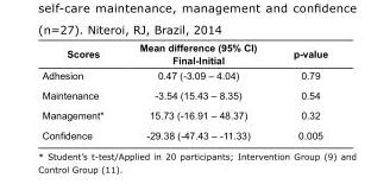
<table><tbody><tr><td>Scores</td><td>Mean difference (95% CI) Final-Initial</td><td>p-value</td></tr><tr><td>Adhesion</td><td>0.47 (-3.09 – 4.04)</td><td>0.79</td></tr><tr><td>Maintenance</td><td>-3.54 (15.43 – 8.35)</td><td>0.54</td></tr><tr><td>Management*</td><td>15.73 (-16.91 – 48.37)</td><td>0.32</td></tr><tr><td>Confidence</td><td>-29.38 (-47.43 – -11.33)</td><td>0.005</td></tr></tbody></table>